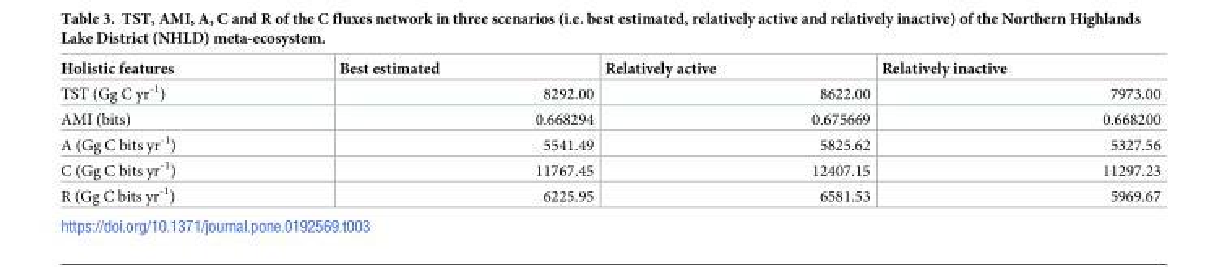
<table><thead><tr><td>Holistic features</td><td>Best estimated</td><td>Relatively active</td><td>Relatively inactive</td></tr></thead><tbody><tr><td>TST (Gg C yr<sup>-1</sup>)</td><td>8292.00</td><td>8622.00</td><td>7973.00</td></tr><tr><td>AMI (bits)</td><td>0.668294</td><td>0.675669</td><td>0.668200</td></tr><tr><td>A (Gg C bits yr<sup>-1</sup>)</td><td>5541.49</td><td>5825.62</td><td>5327.56</td></tr><tr><td>C (Gg C bits yr<sup>-1</sup>)</td><td>11767.45</td><td>12407.15</td><td>11297.23</td></tr><tr><td>R (Gg C bits yr<sup>-1</sup>)</td><td>6225.95</td><td>6581.53</td><td>5969.67</td></tr></tbody></table>